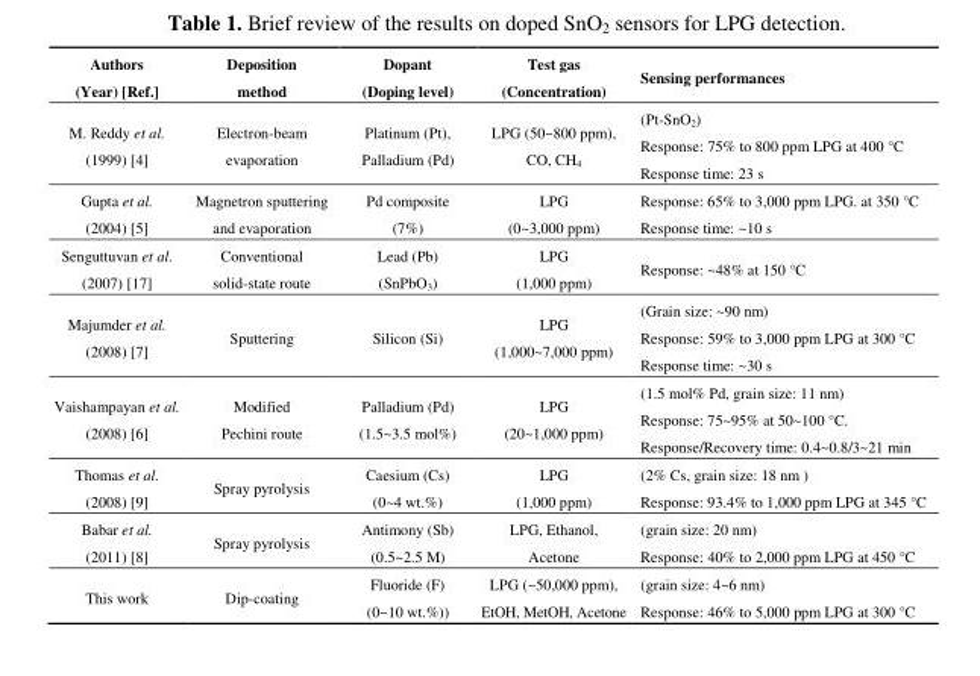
<table><thead><tr><td>Authors (Year) [Ref.]</td><td>Deposition method</td><td>Dopant (Doping level)</td><td>Test gas (Concentration)</td><td>Sensing performances</td></tr></thead><tbody><tr><td>M. Reddy et al. (1999) [4]</td><td>Electron-beam evaporation</td><td>Platinum (Pt), Palladium (Pd)</td><td>LPG (50~800 ppm), CO, CH4</td><td>(Pt-SnO<sub>2</sub>) Response: 75% to 800 ppm LPG at 400 °C Response time: 23 s</td></tr><tr><td>Gupta et al. (2004) [5]</td><td>Magnetron sputtering and evaporation</td><td>Pd composite (7%)</td><td>LPG (0~3,000 ppm)</td><td>Response: 65% to 3,000 ppm LPG. at 350 °C Response time: ~10 s</td></tr><tr><td>Senguttuvan et al. (2007) [17]</td><td>Conventional solid-state route</td><td>Lead (Pb) (SnPbO<sub>3</sub>)</td><td>LPG (1,000 ppm)</td><td>Response: ~48% at 150 °C</td></tr><tr><td>Majumder et al. (2008) [7]</td><td>Sputtering</td><td>Silicon (Si)</td><td>LPG (1,000~7,000 ppm)</td><td>(Grain size: ~90 nm) Response: 59% to 3,000 ppm LPG at 300 °C Response time: ~30 s</td></tr><tr><td>Vaishampayan et al. (2008) [6]</td><td>Modified Pechini route</td><td>Palladium (Pd) (1.5~3.5 mol%)</td><td>LPG (20~1,000 ppm)</td><td>(1.5 mol% Pd, grain size: 11 nm) Response: 75~95% at 50~100 °C. Response/Recovery time: 0.4~0.8/3~21 min</td></tr><tr><td>Thomas et al. (2008) [9]</td><td>Spray pyrolysis</td><td>Caesium (Cs) (0~4 wt.%)</td><td>LPG (1,000 ppm)</td><td>(2% Cs, grain size: 18 nm ) Response: 93.4% to 1,000 ppm LPG at 345 °C</td></tr><tr><td>Babar et al. (2011) [8]</td><td>Spray pyrolysis</td><td>Antimony (Sb) (0.5~2.5 M)</td><td>LPG, Ethanol, Acetone</td><td>(grain size: 20 nm) Response: 40% to 2,000 ppm LPG at 450 °C</td></tr><tr><td>This work</td><td>Dip-coating</td><td>Fluoride (F) (0~10 wt.%))</td><td>LPG (~50,000 ppm), EtOH, MetOH, Acetone</td><td>(grain size: 4~6 nm) Response: 46% to 5,000 ppm LPG at 300 °C</td></tr></tbody></table>